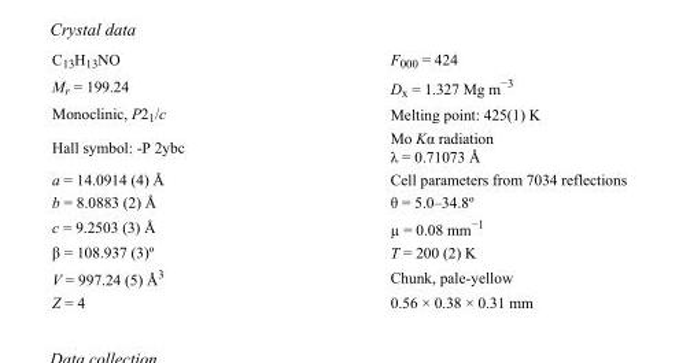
<table><tbody><tr><td>C<sub>13</sub>H<sub>13</sub>NO</td><td>F<sub>000</sub> = 424</td></tr><tr><td>M<sub>r</sub> = 199.24</td><td>D<sub>x</sub> = 1.327 Mg m<sup>−3</sup></td></tr><tr><td>Monoclinic, P2<sub>1</sub>/c</td><td>Melting point: 425(1) K</td></tr><tr><td>Hall symbol: -P 2ybc</td><td>Mo Kα radiation λ = 0.71073 Å</td></tr><tr><td>a = 14.0914 (4) Å</td><td>Cell parameters from 7034 reflections</td></tr><tr><td>b = 8.0883 (2) Å</td><td>θ = 5.0–34.8º</td></tr><tr><td>c = 9.2503 (3) Å</td><td>µ = 0.08 mm<sup>−1</sup></td></tr><tr><td>β = 108.937 (3)º</td><td>T = 200 (2) K</td></tr><tr><td>V = 997.24 (5) Å<sup>3</sup></td><td>Chunk, pale-yellow</td></tr><tr><td>Z = 4</td><td>0.56 × 0.38 × 0.31 mm</td></tr></tbody></table>